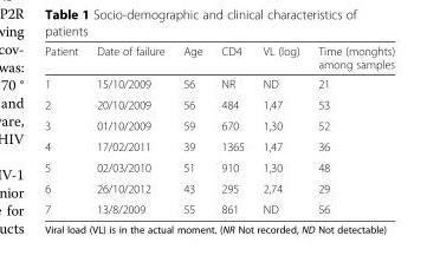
<table><thead><tr><td>Patient</td><td>Date of failure</td><td>Age</td><td>CD4</td><td>VL (log)</td><td>Time (monghts) among samples</td></tr></thead><tbody><tr><td>1</td><td>15/10/2009</td><td>56</td><td>NR</td><td>ND</td><td>21</td></tr><tr><td>2</td><td>20/10/2009</td><td>56</td><td>484</td><td>1,47</td><td>53</td></tr><tr><td>3</td><td>01/10/2009</td><td>59</td><td>670</td><td>1,30</td><td>52</td></tr><tr><td>4</td><td>17/02/2011</td><td>39</td><td>1365</td><td>1,47</td><td>36</td></tr><tr><td>5</td><td>02/03/2010</td><td>51</td><td>910</td><td>1,30</td><td>48</td></tr><tr><td>6</td><td>26/10/2012</td><td>43</td><td>295</td><td>2,74</td><td>29</td></tr><tr><td>7</td><td>13/8/2009</td><td>55</td><td>861</td><td>ND</td><td>56</td></tr></tbody></table>